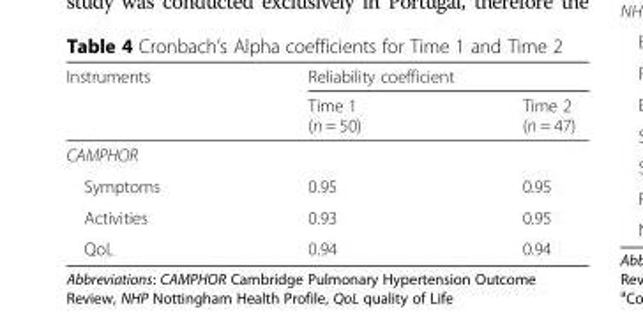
<table><thead><tr><td rowspan="2">Instruments</td><td colspan="2">Reliability coefficient</td></tr><tr><td>Time 1 (n = 50)</td><td>Time 2 (n = 47)</td></tr></thead><tbody><tr><td colspan="3">CAMPHOR</td></tr><tr><td>Symptoms</td><td>0.95</td><td>0.95</td></tr><tr><td>Activities</td><td>0.93</td><td>0.95</td></tr><tr><td>QoL</td><td>0.94</td><td>0.94</td></tr></tbody></table>